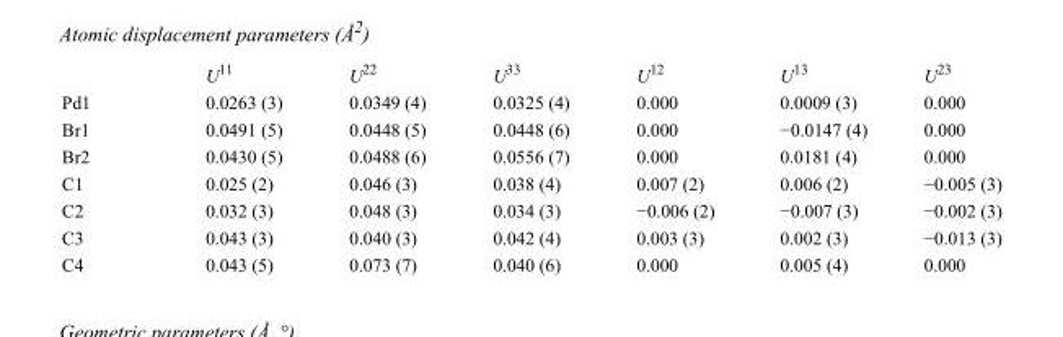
<table><thead><tr><td></td><td>U<sup>11</sup></td><td>U<sup>22</sup></td><td>U<sup>33</sup></td><td>U<sup>12</sup></td><td>U<sup>13</sup></td><td>U<sup>23</sup></td></tr></thead><tbody><tr><td>Pd1</td><td>0.0263 (3)</td><td>0.0349 (4)</td><td>0.0325 (4)</td><td>0.000</td><td>0.0009 (3)</td><td>0.000</td></tr><tr><td>Br1</td><td>0.0491 (5)</td><td>0.0448 (5)</td><td>0.0448 (6)</td><td>0.000</td><td>−0.0147 (4)</td><td>0.000</td></tr><tr><td>Br2</td><td>0.0430 (5)</td><td>0.0488 (6)</td><td>0.0556 (7)</td><td>0.000</td><td>0.0181 (4)</td><td>0.000</td></tr><tr><td>C1</td><td>0.025 (2)</td><td>0.046 (3)</td><td>0.038 (4)</td><td>0.007 (2)</td><td>0.006 (2)</td><td>−0.005 (3)</td></tr><tr><td>C2</td><td>0.032 (3)</td><td>0.048 (3)</td><td>0.034 (3)</td><td>−0.006 (2)</td><td>−0.007 (3)</td><td>−0.002 (3)</td></tr><tr><td>C3</td><td>0.043 (3)</td><td>0.040 (3)</td><td>0.042 (4)</td><td>0.003 (3)</td><td>0.002 (3)</td><td>−0.013 (3)</td></tr><tr><td>C4</td><td>0.043 (5)</td><td>0.073 (7)</td><td>0.040 (6)</td><td>0.000</td><td>0.005 (4)</td><td>0.000</td></tr></tbody></table>